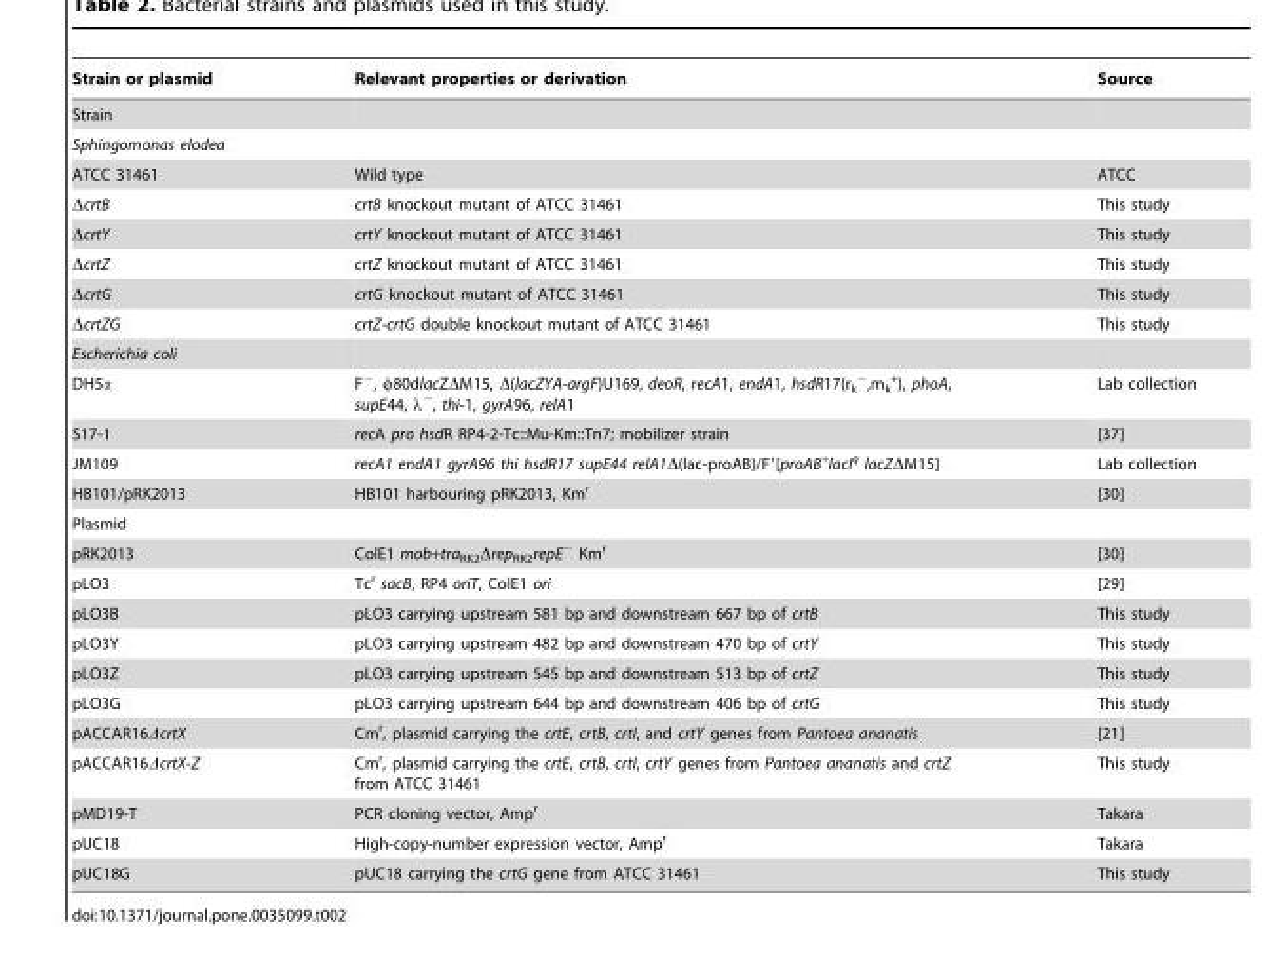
<table><thead><tr><td>Strain or plasmid</td><td>Relevant properties or derivation</td><td>Source</td></tr></thead><tbody><tr><td colspan="3">Strain</td></tr><tr><td colspan="3">Sphingomonas elodea</td></tr><tr><td>ATCC 31461</td><td>Wild type</td><td>ATCC</td></tr><tr><td>ΔcrtB</td><td>crtB knockout mutant of ATCC 31461</td><td>This study</td></tr><tr><td>ΔcrtY</td><td>crtY knockout mutant of ATCC 31461</td><td>This study</td></tr><tr><td>ΔcrtZ</td><td>crtZ knockout mutant of ATCC 31461</td><td>This study</td></tr><tr><td>ΔcrtG</td><td>crtG knockout mutant of ATCC 31461</td><td>This study</td></tr><tr><td>ΔcrtZG</td><td>crtZ-crtG double knockout mutant of ATCC 31461</td><td>This study</td></tr><tr><td colspan="3">Escherichia coli</td></tr><tr><td>DH5α</td><td>F<sup>−</sup>, φ80dlacZΔM15, Δ(lacZYA-argF)U169, deoR, recA1, endA1, hsdR17(r<sub>k</sub> <sup>−</sup>,m<sub>k</sub> <sup>+</sup>), phoA, supE44, λ<sup>−</sup>, thi-1, gyrA96, relA1</td><td>Lab collection</td></tr><tr><td>S17-1</td><td>recA pro hsdR RP4-2-Tc::Mu-Km::Tn7; mobilizer strain</td><td>[37]</td></tr><tr><td>JM109</td><td>recA1 endA1 gyrA96 thi hsdR17 supE44 relA1Δ(lac-proAB)/F′[proAB<sup>+</sup>lacI<sup>q</sup> lacZΔM15]</td><td>Lab collection</td></tr><tr><td>HB101/pRK2013</td><td>HB101 harbouring pRK2013, Km<sup>r</sup></td><td>[30]</td></tr><tr><td colspan="3">Plasmid</td></tr><tr><td>pRK2013</td><td>ColE1 mob+tra<sub>RK2</sub>Δrep<sub>RK2</sub>repE<sup>−</sup> Km<sup>r</sup></td><td>[30]</td></tr><tr><td>pLO3</td><td>Tc<sup>r</sup> sacB, RP4 oriT, ColE1 ori</td><td>[29]</td></tr><tr><td>pLO3B</td><td>pLO3 carrying upstream 581 bp and downstream 667 bp of crtB</td><td>This study</td></tr><tr><td>pLO3Y</td><td>pLO3 carrying upstream 482 bp and downstream 470 bp of crtY</td><td>This study</td></tr><tr><td>pLO3Z</td><td>pLO3 carrying upstream 545 bp and downstream 513 bp of crtZ</td><td>This study</td></tr><tr><td>pLO3G</td><td>pLO3 carrying upstream 644 bp and downstream 406 bp of crtG</td><td>This study</td></tr><tr><td>pACCAR16ΔcrtX</td><td>Cm<sup>r</sup>, plasmid carrying the crtE, crtB, crtI, and crtY genes from Pantoea ananatis</td><td>[21]</td></tr><tr><td>pACCAR16ΔcrtX-Z</td><td>Cm<sup>r</sup>, plasmid carrying the crtE, crtB, crtI, crtY genes from Pantoea ananatis and crtZ from ATCC 31461</td><td>This study</td></tr><tr><td>pMD19-T</td><td>PCR cloning vector, Amp<sup>r</sup></td><td>Takara</td></tr><tr><td>pUC18</td><td>High-copy-number expression vector, Amp<sup>r</sup></td><td>Takara</td></tr><tr><td>pUC18G</td><td>pUC18 carrying the crtG gene from ATCC 31461</td><td>This study</td></tr></tbody></table>